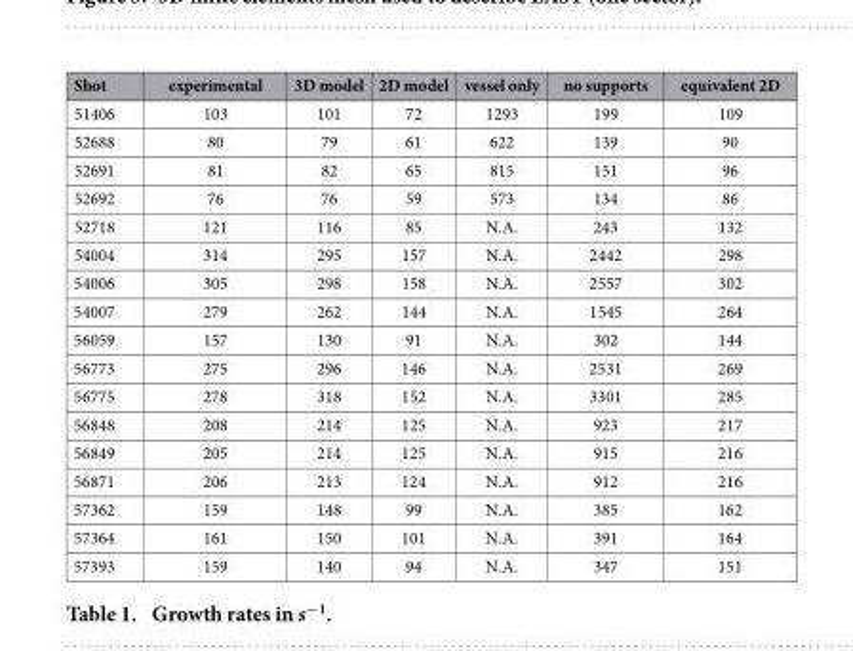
<table><thead><tr><td>Shot</td><td>experimental</td><td>3D model</td><td>2D model</td><td>vessel only</td><td>no supports</td><td>equivalent 2D</td></tr></thead><tbody><tr><td>51406</td><td>103</td><td>101</td><td>72</td><td>1293</td><td>199</td><td>109</td></tr><tr><td>52688</td><td>80</td><td>79</td><td>61</td><td>622</td><td>139</td><td>90</td></tr><tr><td>52691</td><td>81</td><td>82</td><td>65</td><td>815</td><td>151</td><td>96</td></tr><tr><td>52692</td><td>76</td><td>76</td><td>59</td><td>573</td><td>134</td><td>86</td></tr><tr><td>52718</td><td>121</td><td>116</td><td>85</td><td>N.A.</td><td>243</td><td>132</td></tr><tr><td>54004</td><td>314</td><td>295</td><td>157</td><td>N.A.</td><td>2442</td><td>298</td></tr><tr><td>54006</td><td>305</td><td>298</td><td>158</td><td>N.A.</td><td>2557</td><td>302</td></tr><tr><td>54007</td><td>279</td><td>262</td><td>144</td><td>N.A.</td><td>1545</td><td>264</td></tr><tr><td>56059</td><td>157</td><td>130</td><td>91</td><td>N.A.</td><td>302</td><td>144</td></tr><tr><td>56773</td><td>275</td><td>296</td><td>146</td><td>N.A.</td><td>2531</td><td>269</td></tr><tr><td>56775</td><td>278</td><td>318</td><td>152</td><td>N.A.</td><td>3301</td><td>285</td></tr><tr><td>56848</td><td>208</td><td>214</td><td>125</td><td>N.A.</td><td>923</td><td>217</td></tr><tr><td>56849</td><td>205</td><td>214</td><td>125</td><td>N.A.</td><td>915</td><td>216</td></tr><tr><td>56871</td><td>206</td><td>213</td><td>124</td><td>N.A.</td><td>912</td><td>216</td></tr><tr><td>57362</td><td>159</td><td>148</td><td>99</td><td>N.A.</td><td>385</td><td>162</td></tr><tr><td>57364</td><td>161</td><td>150</td><td>101</td><td>N.A.</td><td>391</td><td>164</td></tr><tr><td>57393</td><td>159</td><td>140</td><td>94</td><td>N.A.</td><td>347</td><td>151</td></tr></tbody></table>